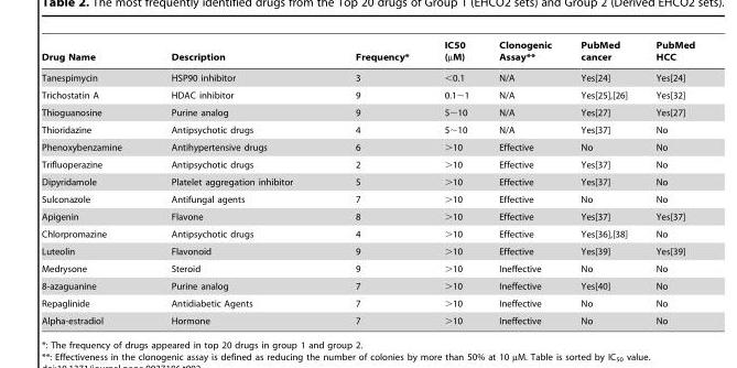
<table><thead><tr><td>Drug Name</td><td>Description</td><td>Frequency*</td><td>IC50 (µM)</td><td>Clonogenic Assay**</td><td>PubMed cancer</td><td>PubMed HCC</td></tr></thead><tbody><tr><td>Tanespimycin</td><td>HSP90 inhibitor</td><td>3</td><td>&lt;0.1</td><td>N/A</td><td>Yes[24]</td><td>Yes[24]</td></tr><tr><td>Trichostatin A</td><td>HDAC inhibitor</td><td>9</td><td>0.1∼1</td><td>N/A</td><td>Yes[25],[26]</td><td>Yes[32]</td></tr><tr><td>Thioguanosine</td><td>Purine analog</td><td>9</td><td>5∼10</td><td>N/A</td><td>Yes[27]</td><td>Yes[27]</td></tr><tr><td>Thioridazine</td><td>Antipsychotic drugs</td><td>4</td><td>5∼10</td><td>N/A</td><td>Yes[37]</td><td>No</td></tr><tr><td>Phenoxybenzamine</td><td>Antihypertensive drugs</td><td>6</td><td>&gt;10</td><td>Effective</td><td>No</td><td>No</td></tr><tr><td>Trifluoperazine</td><td>Antipsychotic drugs</td><td>2</td><td>&gt;10</td><td>Effective</td><td>Yes[37]</td><td>No</td></tr><tr><td>Dipyridamole</td><td>Platelet aggregation inhibitor</td><td>5</td><td>&gt;10</td><td>Effective</td><td>Yes[37]</td><td>No</td></tr><tr><td>Sulconazole</td><td>Antifungal agents</td><td>7</td><td>&gt;10</td><td>Effective</td><td>No</td><td>No</td></tr><tr><td>Apigenin</td><td>Flavone</td><td>8</td><td>&gt;10</td><td>Effective</td><td>Yes[37]</td><td>Yes[37]</td></tr><tr><td>Chlorpromazine</td><td>Antipsychotic drugs</td><td>4</td><td>&gt;10</td><td>Effective</td><td>Yes[36],[38]</td><td>No</td></tr><tr><td>Luteolin</td><td>Flavonoid</td><td>9</td><td>&gt;10</td><td>Effective</td><td>Yes[39]</td><td>Yes[39]</td></tr><tr><td>Medrysone</td><td>Steroid</td><td>9</td><td>&gt;10</td><td>Ineffective</td><td>No</td><td>No</td></tr><tr><td>8-azaguanine</td><td>Purine analog</td><td>7</td><td>&gt;10</td><td>Ineffective</td><td>Yes[40]</td><td>No</td></tr><tr><td>Repaglinide</td><td>Antidiabetic Agents</td><td>7</td><td>&gt;10</td><td>Ineffective</td><td>No</td><td>No</td></tr><tr><td>Alpha-estradiol</td><td>Hormone</td><td>7</td><td>&gt;10</td><td>Ineffective</td><td>No</td><td>No</td></tr></tbody></table>